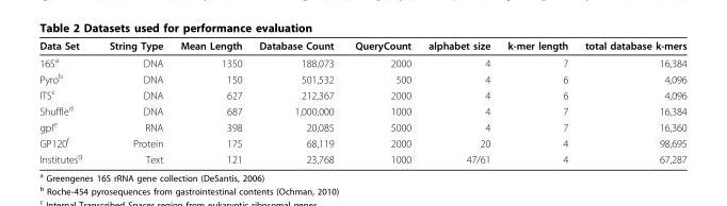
<table><thead><tr><td>Data Set</td><td>String Type</td><td>Mean Length</td><td>Database Count</td><td>QueryCount</td><td>alphabet size</td><td>k-mer length</td><td>total database k-mers</td></tr></thead><tbody><tr><td>16S<sup>a</sup></td><td>DNA</td><td>1350</td><td>188,073</td><td>2000</td><td>4</td><td>7</td><td>16,384</td></tr><tr><td>Pyro<sup>b</sup></td><td>DNA</td><td>150</td><td>501,532</td><td>500</td><td>4</td><td>6</td><td>4,096</td></tr><tr><td>ITS<sup>c</sup></td><td>DNA</td><td>627</td><td>212,367</td><td>2000</td><td>4</td><td>6</td><td>4,096</td></tr><tr><td>Shuffle<sup>d</sup></td><td>DNA</td><td>687</td><td>1,000,000</td><td>1000</td><td>4</td><td>7</td><td>16,384</td></tr><tr><td>gpI<sup>e</sup></td><td>RNA</td><td>398</td><td>20,085</td><td>5000</td><td>4</td><td>7</td><td>16,360</td></tr><tr><td>GP120<sup>f</sup></td><td>Protein</td><td>175</td><td>68,119</td><td>2000</td><td>20</td><td>4</td><td>98,695</td></tr><tr><td>Institutes<sup>g</sup></td><td>Text</td><td>121</td><td>23,768</td><td>1000</td><td>47/61</td><td>4</td><td>67,287</td></tr></tbody></table>